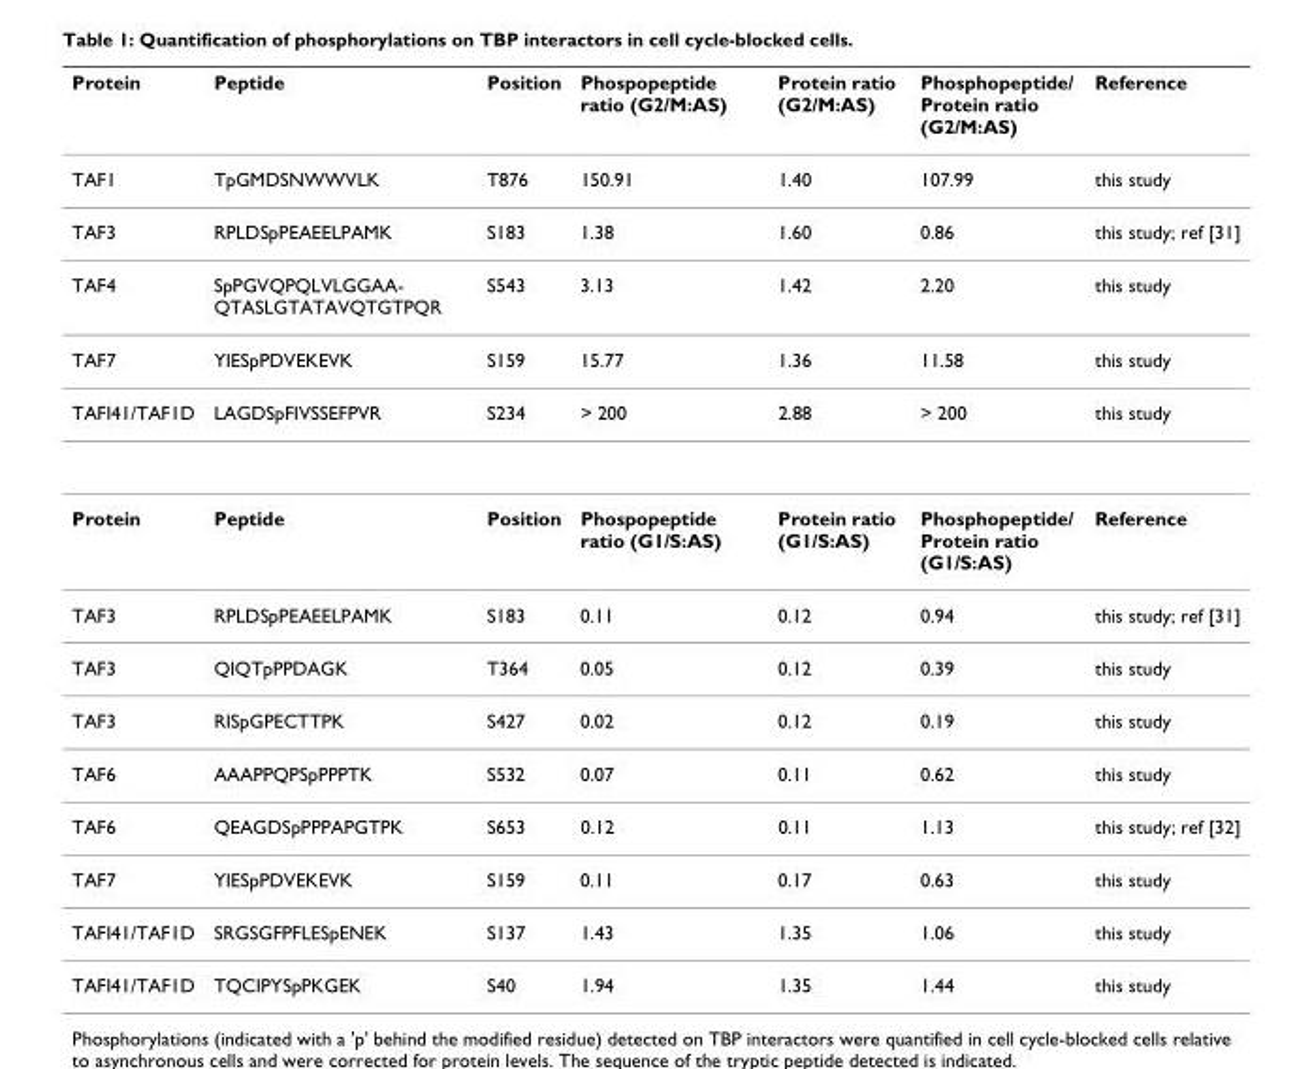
<table><thead><tr><td>Protein</td><td>Peptide</td><td>Position</td><td>Phospopeptide ratio (G2/M:AS)</td><td>Protein ratio (G2/M:AS)</td><td>Phosphopeptide/ Protein ratio (G2/M:AS)</td><td>Reference</td></tr></thead><tbody><tr><td>TAF1</td><td>TpGMDSNWWVLK</td><td>T876</td><td>150.91</td><td>1.40</td><td>107.99</td><td>this study</td></tr><tr><td>TAF3</td><td>RPLDSpPEAEELPAMK</td><td>S183</td><td>1.38</td><td>1.60</td><td>0.86</td><td>this study; ref [31]</td></tr><tr><td>TAF4</td><td>SpPGVQPQLVLGGAA- QTASLGTATAVQTGTPQR</td><td>S543</td><td>3.13</td><td>1.42</td><td>2.20</td><td>this study</td></tr><tr><td>TAF7</td><td>YIESpPDVEKEVK</td><td>S159</td><td>15.77</td><td>1.36</td><td>11.58</td><td>this study</td></tr><tr><td>TAFI41/TAF1D</td><td>LAGDSpFIVSSEFPVR</td><td>S234</td><td>&gt; 200</td><td>2.88</td><td>&gt; 200</td><td>this study</td></tr><tr><td>Protein</td><td>Peptide</td><td>Position</td><td>Phospopeptide ratio (G1/S:AS)</td><td>Protein ratio (G1/S:AS)</td><td>Phosphopeptide/ Protein ratio (G1/S:AS)</td><td>Reference</td></tr><tr><td>TAF3</td><td>RPLDSpPEAEELPAMK</td><td>S183</td><td>0.11</td><td>0.12</td><td>0.94</td><td>this study; ref [31]</td></tr><tr><td>TAF3</td><td>QIQTpPPDAGK</td><td>T364</td><td>0.05</td><td>0.12</td><td>0.39</td><td>this study</td></tr><tr><td>TAF3</td><td>RISpGPECTTPK</td><td>S427</td><td>0.02</td><td>0.12</td><td>0.19</td><td>this study</td></tr><tr><td>TAF6</td><td>AAAPPQPSpPPPTK</td><td>S532</td><td>0.07</td><td>0.11</td><td>0.62</td><td>this study</td></tr><tr><td>TAF6</td><td>QEAGDSpPPPAPGTPK</td><td>S653</td><td>0.12</td><td>0.11</td><td>1.13</td><td>this study; ref [32]</td></tr><tr><td>TAF7</td><td>YIESpPDVEKEVK</td><td>S159</td><td>0.11</td><td>0.17</td><td>0.63</td><td>this study</td></tr><tr><td>TAFI41/TAF1D</td><td>SRGSGFPFLESpENEK</td><td>S137</td><td>1.43</td><td>1.35</td><td>1.06</td><td>this study</td></tr><tr><td>TAFI41/TAF1D</td><td>TQCIPYSpPKGEK</td><td>S40</td><td>1.94</td><td>1.35</td><td>1.44</td><td>this study</td></tr></tbody></table>